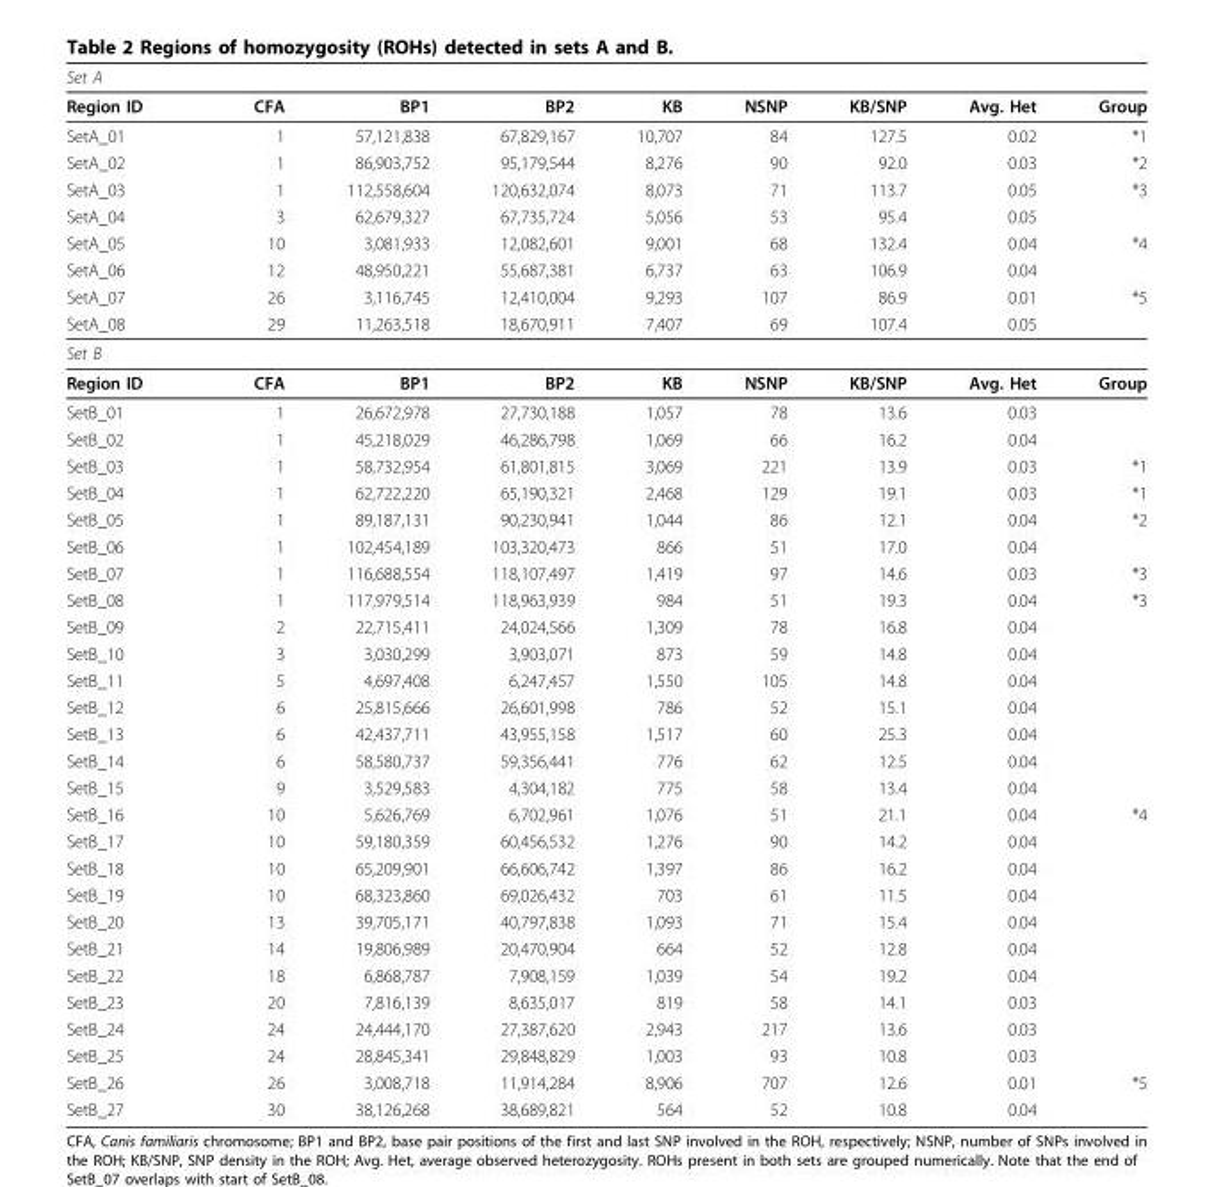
<table><thead><tr><td>Set A</td><td></td><td></td><td></td><td></td><td></td><td></td><td></td><td></td></tr></thead><tbody><tr><td>Region ID</td><td>CFA</td><td>BP1</td><td>BP2</td><td>KB</td><td>NSNP</td><td>KB/SNP</td><td>Avg. Het</td><td>Group</td></tr><tr><td>SetA_01</td><td>1</td><td>57,121,838</td><td>67,829,167</td><td>10,707</td><td>84</td><td>127.5</td><td>0.02</td><td>*1</td></tr><tr><td>SetA_02</td><td>1</td><td>86,903,752</td><td>95,179,544</td><td>8,276</td><td>90</td><td>92.0</td><td>0.03</td><td>*2</td></tr><tr><td>SetA_03</td><td>1</td><td>112,558,604</td><td>120,632,074</td><td>8,073</td><td>71</td><td>113.7</td><td>0.05</td><td>*3</td></tr><tr><td>SetA_04</td><td>3</td><td>62,679,327</td><td>67,735,724</td><td>5,056</td><td>53</td><td>95.4</td><td>0.05</td><td></td></tr><tr><td>SetA_05</td><td>10</td><td>3,081,933</td><td>12,082,601</td><td>9,001</td><td>68</td><td>132.4</td><td>0.04</td><td>*4</td></tr><tr><td>SetA_06</td><td>12</td><td>48,950,221</td><td>55,687,381</td><td>6,737</td><td>63</td><td>106.9</td><td>0.04</td><td></td></tr><tr><td>SetA_07</td><td>26</td><td>3,116,745</td><td>12,410,004</td><td>9,293</td><td>107</td><td>86.9</td><td>0.01</td><td>*5</td></tr><tr><td>SetA_08</td><td>29</td><td>11,263,518</td><td>18,670,911</td><td>7,407</td><td>69</td><td>107.4</td><td>0.05</td><td></td></tr><tr><td colspan="9">Set B</td></tr><tr><td>Region ID</td><td>CFA</td><td>BP1</td><td>BP2</td><td>KB</td><td>NSNP</td><td>KB/SNP</td><td>Avg. Het</td><td>Group</td></tr><tr><td>SetB_01</td><td>1</td><td>26,672,978</td><td>27,730,188</td><td>1,057</td><td>78</td><td>13.6</td><td>0.03</td><td></td></tr><tr><td>SetB_02</td><td>1</td><td>45,218,029</td><td>46,286,798</td><td>1,069</td><td>66</td><td>16.2</td><td>0.04</td><td></td></tr><tr><td>SetB_03</td><td>1</td><td>58,732,954</td><td>61,801,815</td><td>3,069</td><td>221</td><td>13.9</td><td>0.03</td><td>*1</td></tr><tr><td>SetB_04</td><td>1</td><td>62,722,220</td><td>65,190,321</td><td>2,468</td><td>129</td><td>19.1</td><td>0.03</td><td>*1</td></tr><tr><td>SetB_05</td><td>1</td><td>89,187,131</td><td>90,230,941</td><td>1,044</td><td>86</td><td>12.1</td><td>0.04</td><td>*2</td></tr><tr><td>SetB_06</td><td>1</td><td>102,454,189</td><td>103,320,473</td><td>866</td><td>51</td><td>17.0</td><td>0.04</td><td></td></tr><tr><td>SetB_07</td><td>1</td><td>116,688,554</td><td>118,107,497</td><td>1,419</td><td>97</td><td>14.6</td><td>0.03</td><td>*3</td></tr><tr><td>SetB_08</td><td>1</td><td>117,979,514</td><td>118,963,939</td><td>984</td><td>51</td><td>19.3</td><td>0.04</td><td>*3</td></tr><tr><td>SetB_09</td><td>2</td><td>22,715,411</td><td>24,024,566</td><td>1,309</td><td>78</td><td>16.8</td><td>0.04</td><td></td></tr><tr><td>SetB_10</td><td>3</td><td>3,030,299</td><td>3,903,071</td><td>873</td><td>59</td><td>14.8</td><td>0.04</td><td></td></tr><tr><td>SetB_11</td><td>5</td><td>4,697,408</td><td>6,247,457</td><td>1,550</td><td>105</td><td>14.8</td><td>0.04</td><td></td></tr><tr><td>SetB_12</td><td>6</td><td>25,815,666</td><td>26,601,998</td><td>786</td><td>52</td><td>15.1</td><td>0.04</td><td></td></tr><tr><td>SetB_13</td><td>6</td><td>42,437,711</td><td>43,955,158</td><td>1,517</td><td>60</td><td>25.3</td><td>0.04</td><td></td></tr><tr><td>SetB_14</td><td>6</td><td>58,580,737</td><td>59,356,441</td><td>776</td><td>62</td><td>12.5</td><td>0.04</td><td></td></tr><tr><td>SetB_15</td><td>9</td><td>3,529,583</td><td>4,304,182</td><td>775</td><td>58</td><td>13.4</td><td>0.04</td><td></td></tr><tr><td>SetB_16</td><td>10</td><td>5,626,769</td><td>6,702,961</td><td>1,076</td><td>51</td><td>21.1</td><td>0.04</td><td>*4</td></tr><tr><td>SetB_17</td><td>10</td><td>59,180,359</td><td>60,456,532</td><td>1,276</td><td>90</td><td>14.2</td><td>0.04</td><td></td></tr><tr><td>SetB_18</td><td>10</td><td>65,209,901</td><td>66,606,742</td><td>1,397</td><td>86</td><td>16.2</td><td>0.04</td><td></td></tr><tr><td>SetB_19</td><td>10</td><td>68,323,860</td><td>69,026,432</td><td>703</td><td>61</td><td>11.5</td><td>0.04</td><td></td></tr><tr><td>SetB_20</td><td>13</td><td>39,705,171</td><td>40,797,838</td><td>1,093</td><td>71</td><td>15.4</td><td>0.04</td><td></td></tr><tr><td>SetB_21</td><td>14</td><td>19,806,989</td><td>20,470,904</td><td>664</td><td>52</td><td>12.8</td><td>0.04</td><td></td></tr><tr><td>SetB_22</td><td>18</td><td>6,868,787</td><td>7,908,159</td><td>1,039</td><td>54</td><td>19.2</td><td>0.04</td><td></td></tr><tr><td>SetB_23</td><td>20</td><td>7,816,139</td><td>8,635,017</td><td>819</td><td>58</td><td>14.1</td><td>0.03</td><td></td></tr><tr><td>SetB_24</td><td>24</td><td>24,444,170</td><td>27,387,620</td><td>2,943</td><td>217</td><td>13.6</td><td>0.03</td><td></td></tr><tr><td>SetB_25</td><td>24</td><td>28,845,341</td><td>29,848,829</td><td>1,003</td><td>93</td><td>10.8</td><td>0.03</td><td></td></tr><tr><td>SetB_26</td><td>26</td><td>3,008,718</td><td>11,914,284</td><td>8,906</td><td>707</td><td>12.6</td><td>0.01</td><td>*5</td></tr><tr><td>SetB_27</td><td>30</td><td>38,126,268</td><td>38,689,821</td><td>564</td><td>52</td><td>10.8</td><td>0.04</td><td></td></tr></tbody></table>